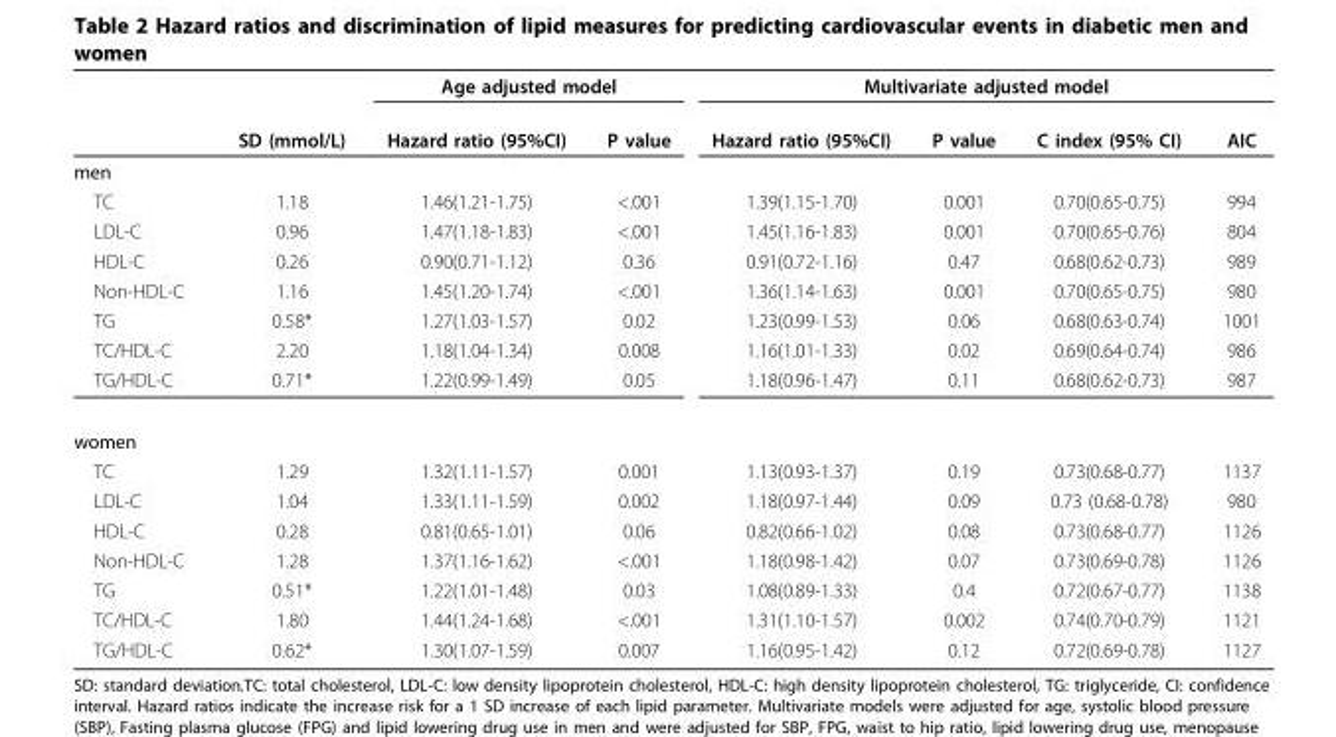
<table><thead><tr><td rowspan="2"></td><td rowspan="2">SD (mmol/L)</td><td colspan="2">Age adjusted model</td><td colspan="4">Multivariate adjusted model</td></tr><tr><td>Hazard ratio (95%CI)</td><td>P value</td><td>Hazard ratio (95%CI)</td><td>P value</td><td>C index (95% CI)</td><td>AIC</td></tr></thead><tbody><tr><td colspan="8">men</td></tr><tr><td>TC</td><td>1.18</td><td>1.46(1.21-1.75)</td><td>&lt;.001</td><td>1.39(1.15-1.70)</td><td>0.001</td><td>0.70(0.65-0.75)</td><td>994</td></tr><tr><td>LDL-C</td><td>0.96</td><td>1.47(1.18-1.83)</td><td>&lt;.001</td><td>1.45(1.16-1.83)</td><td>0.001</td><td>0.70(0.65-0.76)</td><td>804</td></tr><tr><td>HDL-C</td><td>0.26</td><td>0.90(0.71-1.12)</td><td>0.36</td><td>0.91(0.72-1.16)</td><td>0.47</td><td>0.68(0.62-0.73)</td><td>989</td></tr><tr><td>Non-HDL-C</td><td>1.16</td><td>1.45(1.20-1.74)</td><td>&lt;.001</td><td>1.36(1.14-1.63)</td><td>0.001</td><td>0.70(0.65-0.75)</td><td>980</td></tr><tr><td>TG</td><td>0.58*</td><td>1.27(1.03-1.57)</td><td>0.02</td><td>1.23(0.99-1.53)</td><td>0.06</td><td>0.68(0.63-0.74)</td><td>1001</td></tr><tr><td>TC/HDL-C</td><td>2.20</td><td>1.18(1.04-1.34)</td><td>0.008</td><td>1.16(1.01-1.33)</td><td>0.02</td><td>0.69(0.64-0.74)</td><td>986</td></tr><tr><td>TG/HDL-C</td><td>0.71*</td><td>1.22(0.99-1.49)</td><td>0.05</td><td>1.18(0.96-1.47)</td><td>0.11</td><td>0.68(0.62-0.73)</td><td>987</td></tr><tr><td colspan="8">women</td></tr><tr><td>TC</td><td>1.29</td><td>1.32(1.11-1.57)</td><td>0.001</td><td>1.13(0.93-1.37)</td><td>0.19</td><td>0.73(0.68-0.77)</td><td>1137</td></tr><tr><td>LDL-C</td><td>1.04</td><td>1.33(1.11-1.59)</td><td>0.002</td><td>1.18(0.97-1.44)</td><td>0.09</td><td>0.73 (0.68-0.78)</td><td>980</td></tr><tr><td>HDL-C</td><td>0.28</td><td>0.81(0.65-1.01)</td><td>0.06</td><td>0.82(0.66-1.02)</td><td>0.08</td><td>0.73(0.68-0.77)</td><td>1126</td></tr><tr><td>Non-HDL-C</td><td>1.28</td><td>1.37(1.16-1.62)</td><td>&lt;.001</td><td>1.18(0.98-1.42)</td><td>0.07</td><td>0.73(0.69-0.78)</td><td>1126</td></tr><tr><td>TG</td><td>0.51*</td><td>1.22(1.01-1.48)</td><td>0.03</td><td>1.08(0.89-1.33)</td><td>0.4</td><td>0.72(0.67-0.77)</td><td>1138</td></tr><tr><td>TC/HDL-C</td><td>1.80</td><td>1.44(1.24-1.68)</td><td>&lt;.001</td><td>1.31(1.10-1.57)</td><td>0.002</td><td>0.74(0.70-0.79)</td><td>1121</td></tr><tr><td>TG/HDL-C</td><td>0.62*</td><td>1.30(1.07-1.59)</td><td>0.007</td><td>1.16(0.95-1.42)</td><td>0.12</td><td>0.72(0.69-0.78)</td><td>1127</td></tr></tbody></table>